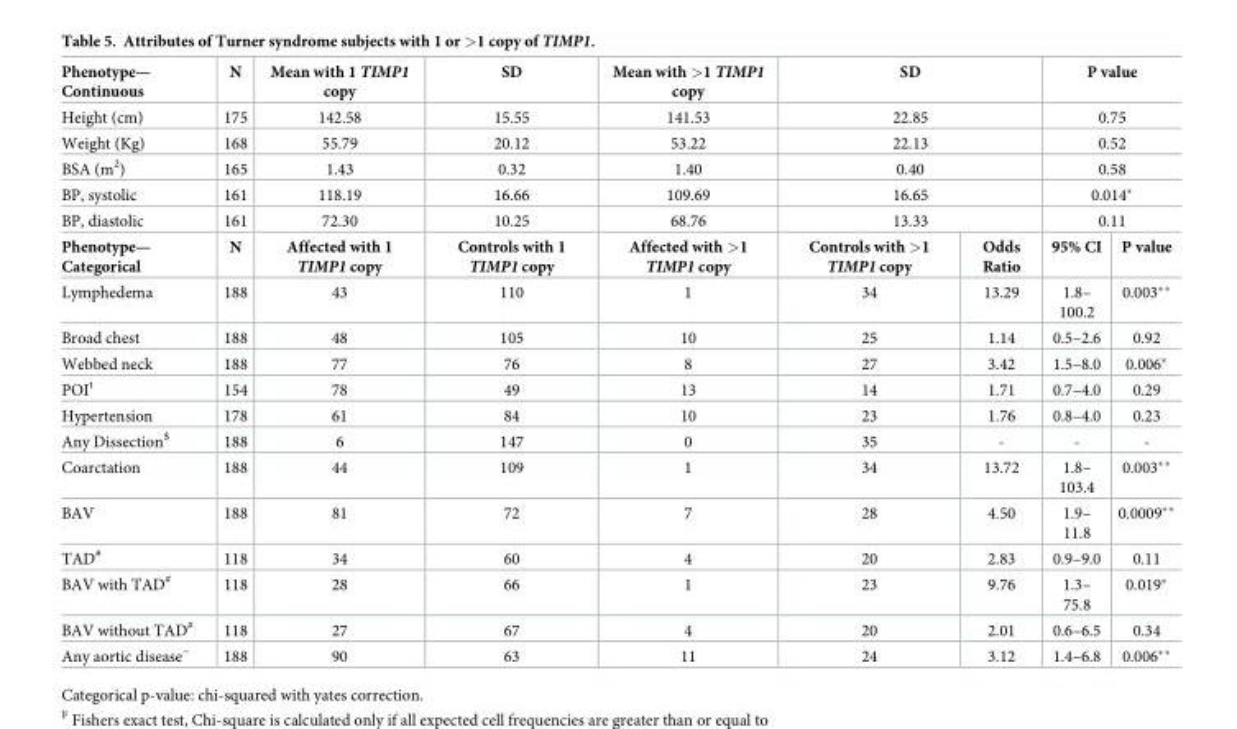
<table><tbody><tr><td>Phenotype— Continuous</td><td>N</td><td>Mean with 1 TIMP1 copy</td><td>SD</td><td>Mean with &gt;1 TIMP1 copy</td><td colspan="2">SD</td><td colspan="2">P value</td></tr><tr><td>Height (cm)</td><td>175</td><td>142.58</td><td>15.55</td><td>141.53</td><td colspan="2">22.85</td><td colspan="2">0.75</td></tr><tr><td>Weight (Kg)</td><td>168</td><td>55.79</td><td>20.12</td><td>53.22</td><td colspan="2">22.13</td><td colspan="2">0.52</td></tr><tr><td>BSA (m<sup>2</sup>)</td><td>165</td><td>1.43</td><td>0.32</td><td>1.40</td><td colspan="2">0.40</td><td colspan="2">0.58</td></tr><tr><td>BP, systolic</td><td>161</td><td>118.19</td><td>16.66</td><td>109.69</td><td colspan="2">16.65</td><td colspan="2">0.014*</td></tr><tr><td>BP, diastolic</td><td>161</td><td>72.30</td><td>10.25</td><td>68.76</td><td colspan="2">13.33</td><td colspan="2">0.11</td></tr><tr><td>Phenotype— Categorical</td><td>N</td><td>Affected with 1 TIMP1 copy</td><td>Controls with 1 TIMP1 copy</td><td>Affected with &gt;1 TIMP1 copy</td><td>Controls with &gt;1 TIMP1 copy</td><td>Odds Ratio</td><td>95% CI</td><td>P value</td></tr><tr><td>Lymphedema</td><td>188</td><td>43</td><td>110</td><td>1</td><td>34</td><td>13.29</td><td>1.8– 100.2</td><td>0.003**</td></tr><tr><td>Broad chest</td><td>188</td><td>48</td><td>105</td><td>10</td><td>25</td><td>1.14</td><td>0.5–2.6</td><td>0.92</td></tr><tr><td>Webbed neck</td><td>188</td><td>77</td><td>76</td><td>8</td><td>27</td><td>3.42</td><td>1.5–8.0</td><td>0.006*</td></tr><tr><td>POI<sup>t</sup></td><td>154</td><td>78</td><td>49</td><td>13</td><td>14</td><td>1.71</td><td>0.7–4.0</td><td>0.29</td></tr><tr><td>Hypertension</td><td>178</td><td>61</td><td>84</td><td>10</td><td>23</td><td>1.76</td><td>0.8–4.0</td><td>0.23</td></tr><tr><td>Any Dissection<sup>$</sup></td><td>188</td><td>6</td><td>147</td><td>0</td><td>35</td><td>-</td><td>-</td><td>-</td></tr><tr><td>Coarctation</td><td>188</td><td>44</td><td>109</td><td>1</td><td>34</td><td>13.72</td><td>1.8– 103.4</td><td>0.003**</td></tr><tr><td>BAV</td><td>188</td><td>81</td><td>72</td><td>7</td><td>28</td><td>4.50</td><td>1.9– 11.8</td><td>0.0009**</td></tr><tr><td>TAD<sup>#</sup></td><td>118</td><td>34</td><td>60</td><td>4</td><td>20</td><td>2.83</td><td>0.9–9.0</td><td>0.11</td></tr><tr><td>BAV with TAD<sup>#</sup></td><td>118</td><td>28</td><td>66</td><td>1</td><td>23</td><td>9.76</td><td>1.3– 75.8</td><td>0.019*</td></tr><tr><td>BAV without TAD<sup>#</sup></td><td>118</td><td>27</td><td>67</td><td>4</td><td>20</td><td>2.01</td><td>0.6–6.5</td><td>0.34</td></tr><tr><td>Any aortic disease<sup>~</sup></td><td>188</td><td>90</td><td>63</td><td>11</td><td>24</td><td>3.12</td><td>1.4–6.8</td><td>0.006**</td></tr></tbody></table>